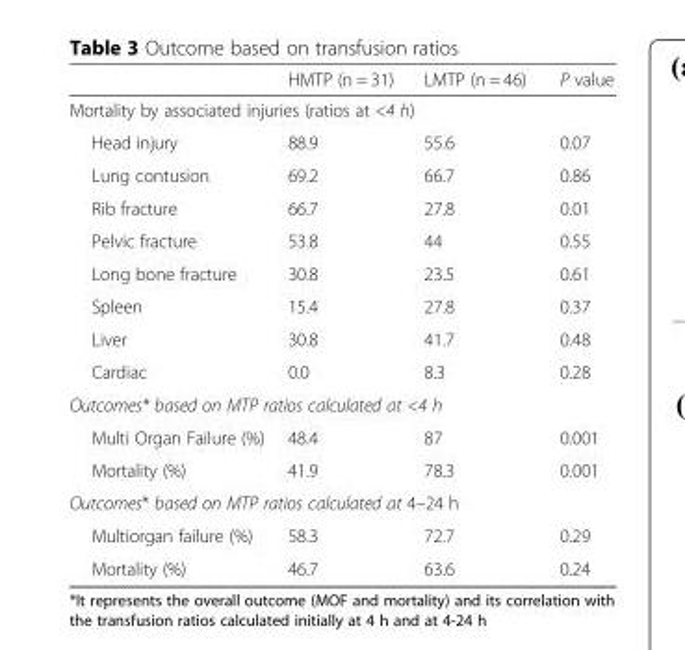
<table><thead><tr><td></td><td>HMTP (n = 31)</td><td>LMTP (n = 46)</td><td>P value</td></tr></thead><tbody><tr><td colspan="4">Mortality by associated injuries (ratios at &lt;4 h)</td></tr><tr><td>Head injury</td><td>88.9</td><td>55.6</td><td>0.07</td></tr><tr><td>Lung contusion</td><td>69.2</td><td>66.7</td><td>0.86</td></tr><tr><td>Rib fracture</td><td>66.7</td><td>27.8</td><td>0.01</td></tr><tr><td>Pelvic fracture</td><td>53.8</td><td>44</td><td>0.55</td></tr><tr><td>Long bone fracture</td><td>30.8</td><td>23.5</td><td>0.61</td></tr><tr><td>Spleen</td><td>15.4</td><td>27.8</td><td>0.37</td></tr><tr><td>Liver</td><td>30.8</td><td>41.7</td><td>0.48</td></tr><tr><td>Cardiac</td><td>0.0</td><td>8.3</td><td>0.28</td></tr><tr><td colspan="4">Outcomes* based on MTP ratios calculated at &lt;4 h</td></tr><tr><td>Multi Organ Failure (%)</td><td>48.4</td><td>87</td><td>0.001</td></tr><tr><td>Mortality (%)</td><td>41.9</td><td>78.3</td><td>0.001</td></tr><tr><td colspan="4">Outcomes* based on MTP ratios calculated at 4–24 h</td></tr><tr><td>Multiorgan failure (%)</td><td>58.3</td><td>72.7</td><td>0.29</td></tr><tr><td>Mortality (%)</td><td>46.7</td><td>63.6</td><td>0.24</td></tr></tbody></table>